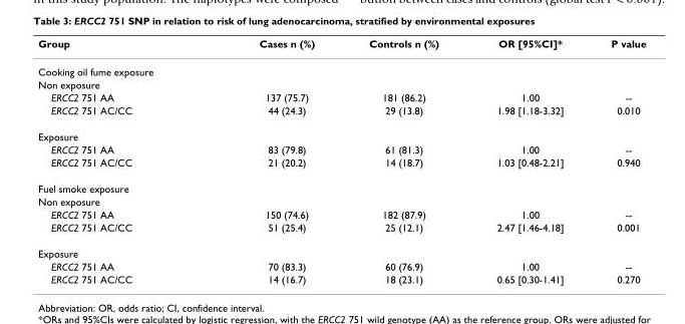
<table><thead><tr><td>Group</td><td>Cases n (%)</td><td>Controls n (%)</td><td>OR [95%CI]*</td><td>P value</td></tr></thead><tbody><tr><td colspan="5">Cooking oil fume exposure</td></tr><tr><td colspan="5">Non exposure</td></tr><tr><td>ERCC2 751 AA</td><td>137 (75.7)</td><td>181 (86.2)</td><td>1.00</td><td>--</td></tr><tr><td>ERCC2 751 AC/CC</td><td>44 (24.3)</td><td>29 (13.8)</td><td>1.98 [1.18-3.32]</td><td>0.010</td></tr><tr><td colspan="5">Exposure</td></tr><tr><td>ERCC2 751 AA</td><td>83 (79.8)</td><td>61 (81.3)</td><td>1.00</td><td>--</td></tr><tr><td>ERCC2 751 AC/CC</td><td>21 (20.2)</td><td>14 (18.7)</td><td>1.03 [0.48-2.21]</td><td>0.940</td></tr><tr><td colspan="5">Fuel smoke exposure</td></tr><tr><td colspan="5">Non exposure</td></tr><tr><td>ERCC2 751 AA</td><td>150 (74.6)</td><td>182 (87.9)</td><td>1.00</td><td>--</td></tr><tr><td>ERCC2 751 AC/CC</td><td>51 (25.4)</td><td>25 (12.1)</td><td>2.47 [1.46-4.18]</td><td>0.001</td></tr><tr><td colspan="5">Exposure</td></tr><tr><td>ERCC2 751 AA</td><td>70 (83.3)</td><td>60 (76.9)</td><td>1.00</td><td>--</td></tr><tr><td>ERCC2 751 AC/CC</td><td>14 (16.7)</td><td>18 (23.1)</td><td>0.65 [0.30-1.41]</td><td>0.270</td></tr></tbody></table>